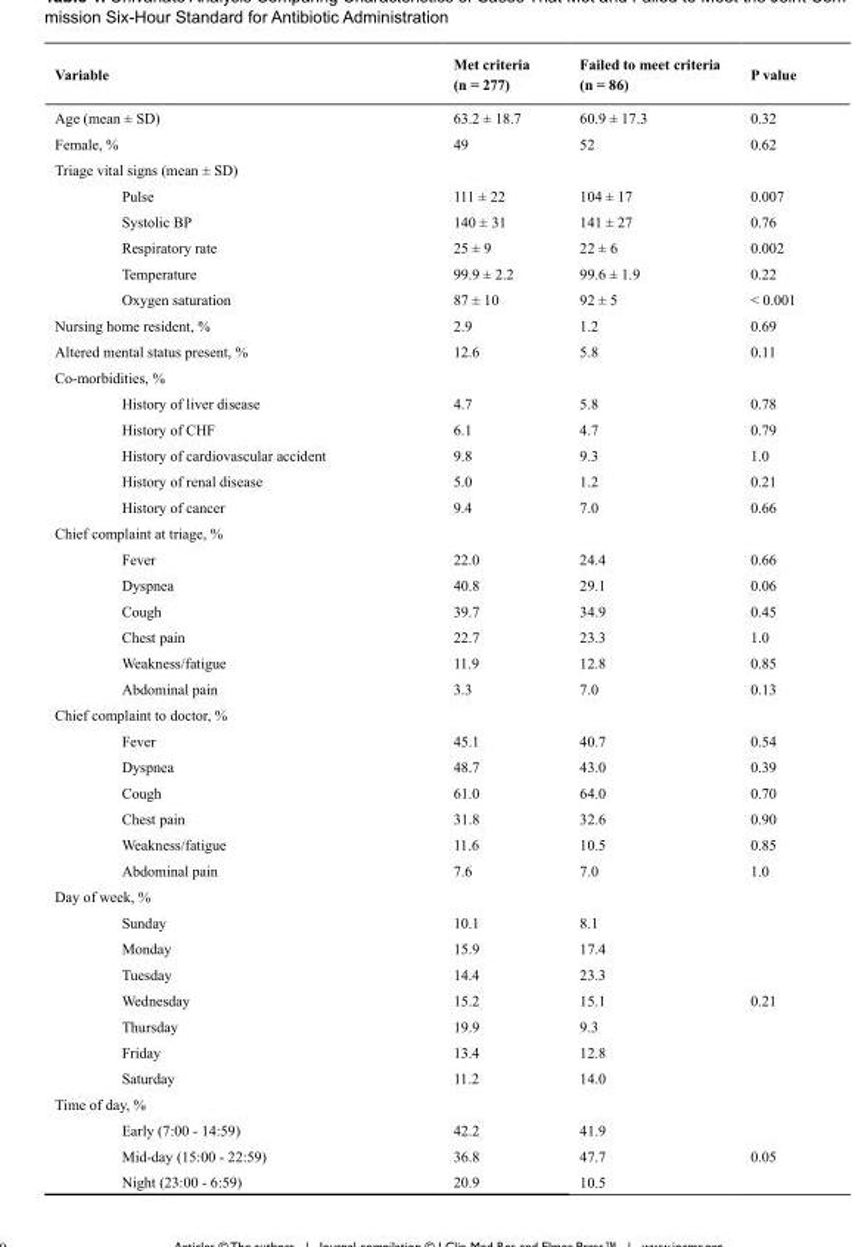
<table><thead><tr><td>Variable</td><td>Met criteria (n = 277)</td><td>Failed to meet criteria (n = 86)</td><td>P value</td></tr></thead><tbody><tr><td>Age (mean ± SD)</td><td>63.2 ± 18.7</td><td>60.9 ± 17.3</td><td>0.32</td></tr><tr><td>Female, %</td><td>49</td><td>52</td><td>0.62</td></tr><tr><td colspan="4">Triage vital signs (mean ± SD)</td></tr><tr><td>Pulse</td><td>111 ± 22</td><td>104 ± 17</td><td>0.007</td></tr><tr><td>Systolic BP</td><td>140 ± 31</td><td>141 ± 27</td><td>0.76</td></tr><tr><td>Respiratory rate</td><td>25 ± 9</td><td>22 ± 6</td><td>0.002</td></tr><tr><td>Temperature</td><td>99.9 ± 2.2</td><td>99.6 ± 1.9</td><td>0.22</td></tr><tr><td>Oxygen saturation</td><td>87 ± 10</td><td>92 ± 5</td><td>&lt; 0.001</td></tr><tr><td>Nursing home resident, %</td><td>2.9</td><td>1.2</td><td>0.69</td></tr><tr><td>Altered mental status present, %</td><td>12.6</td><td>5.8</td><td>0.11</td></tr><tr><td colspan="4">Co-morbidities, %</td></tr><tr><td>History of liver disease</td><td>4.7</td><td>5.8</td><td>0.78</td></tr><tr><td>History of CHF</td><td>6.1</td><td>4.7</td><td>0.79</td></tr><tr><td>History of cardiovascular accident</td><td>9.8</td><td>9.3</td><td>1.0</td></tr><tr><td>History of renal disease</td><td>5.0</td><td>1.2</td><td>0.21</td></tr><tr><td>History of cancer</td><td>9.4</td><td>7.0</td><td>0.66</td></tr><tr><td colspan="4">Chief complaint at triage, %</td></tr><tr><td>Fever</td><td>22.0</td><td>24.4</td><td>0.66</td></tr><tr><td>Dyspnea</td><td>40.8</td><td>29.1</td><td>0.06</td></tr><tr><td>Cough</td><td>39.7</td><td>34.9</td><td>0.45</td></tr><tr><td>Chest pain</td><td>22.7</td><td>23.3</td><td>1.0</td></tr><tr><td>Weakness/fatigue</td><td>11.9</td><td>12.8</td><td>0.85</td></tr><tr><td>Abdominal pain</td><td>3.3</td><td>7.0</td><td>0.13</td></tr><tr><td colspan="4">Chief complaint to doctor, %</td></tr><tr><td>Fever</td><td>45.1</td><td>40.7</td><td>0.54</td></tr><tr><td>Dyspnea</td><td>48.7</td><td>43.0</td><td>0.39</td></tr><tr><td>Cough</td><td>61.0</td><td>64.0</td><td>0.70</td></tr><tr><td>Chest pain</td><td>31.8</td><td>32.6</td><td>0.90</td></tr><tr><td>Weakness/fatigue</td><td>11.6</td><td>10.5</td><td>0.85</td></tr><tr><td>Abdominal pain</td><td>7.6</td><td>7.0</td><td>1.0</td></tr><tr><td colspan="4">Day of week, %</td></tr><tr><td>Sunday</td><td>10.1</td><td>8.1</td><td rowspan="7">0.21</td></tr><tr><td>Monday</td><td>15.9</td><td>17.4</td></tr><tr><td>Tuesday</td><td>14.4</td><td>23.3</td></tr><tr><td>Wednesday</td><td>15.2</td><td>15.1</td></tr><tr><td>Thursday</td><td>19.9</td><td>9.3</td></tr><tr><td>Friday</td><td>13.4</td><td>12.8</td></tr><tr><td>Saturday</td><td>11.2</td><td>14.0</td></tr><tr><td colspan="4">Time of day, %</td></tr><tr><td>Early (7:00 - 14:59)</td><td>42.2</td><td>41.9</td><td rowspan="3">0.05</td></tr><tr><td>Mid-day (15:00 - 22:59)</td><td>36.8</td><td>47.7</td></tr><tr><td>Night (23:00 - 6:59)</td><td>20.9</td><td>10.5</td></tr></tbody></table>